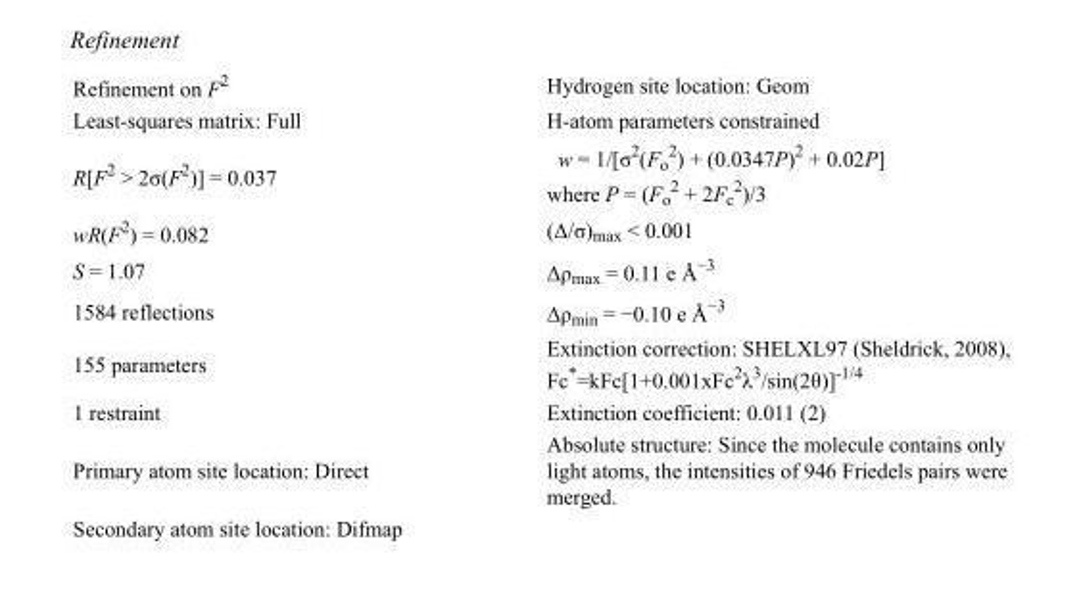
<table><tbody><tr><td>Refinement on F<sup>2</sup></td><td>Hydrogen site location: Geom</td></tr><tr><td>Least-squares matrix: Full</td><td>H-atom parameters constrained</td></tr><tr><td>R[F<sup>2</sup> &gt; 2σ(F<sup>2</sup>)] = 0.037</td><td>w = 1/[σ<sup>2</sup>(F<sub>o</sub> <sup>2</sup>) + (0.0347P)<sup>2</sup> + 0.02P] where P = (F<sub>o</sub> <sup>2</sup> + 2F<sub>c</sub> <sup>2</sup>)/3</td></tr><tr><td>wR(F<sup>2</sup>) = 0.082</td><td>(Δ/σ)<sub>max</sub> &lt; 0.001</td></tr><tr><td>S = 1.07</td><td>Δρ<sub>max</sub> = 0.11 e Å<sup>−3</sup></td></tr><tr><td>1584 reflections</td><td>Δρ<sub>min</sub> = −0.10 e Å<sup>−3</sup></td></tr><tr><td>155 parameters</td><td>Extinction correction: SHELXL97 (Sheldrick, 2008), Fc*=kFc[1+0.001xFc<sup>2</sup>λ<sup>3</sup>/sin(2θ)]<sup>-1/4</sup></td></tr><tr><td>1 restraint</td><td>Extinction coefficient: 0.011 (2)</td></tr><tr><td>Primary atom site location: Direct</td><td>Absolute structure: Since the molecule contains only light atoms, the intensities of 946 Friedels pairs were merged.</td></tr><tr><td>Secondary atom site location: Difmap</td><td></td></tr></tbody></table>